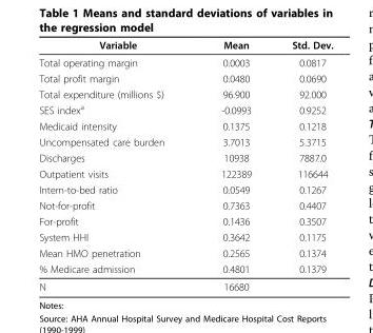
<table><thead><tr><td>Variable</td><td>Mean</td><td>Std. Dev.</td></tr></thead><tbody><tr><td>Total operating margin</td><td>0.0003</td><td>0.0817</td></tr><tr><td>Total profit margin</td><td>0.0480</td><td>0.0690</td></tr><tr><td>Total expenditure (millions $)</td><td>96.900</td><td>92.000</td></tr><tr><td>SES index<sup>a</sup></td><td>-0.0993</td><td>0.9252</td></tr><tr><td>Medicaid intensity</td><td>0.1375</td><td>0.1218</td></tr><tr><td>Uncompensated care burden</td><td>3.7013</td><td>5.3715</td></tr><tr><td>Discharges</td><td>10938</td><td>7887.0</td></tr><tr><td>Outpatient visits</td><td>122389</td><td>116644</td></tr><tr><td>Intern-to-bed ratio</td><td>0.0549</td><td>0.1267</td></tr><tr><td>Not-for-profit</td><td>0.7363</td><td>0.4407</td></tr><tr><td>For-profit</td><td>0.1436</td><td>0.3507</td></tr><tr><td>System HHI</td><td>0.3642</td><td>0.1175</td></tr><tr><td>Mean HMO penetration</td><td>0.2565</td><td>0.1374</td></tr><tr><td>% Medicare admission</td><td>0.4801</td><td>0.1379</td></tr><tr><td>N</td><td>16680</td><td></td></tr></tbody></table>